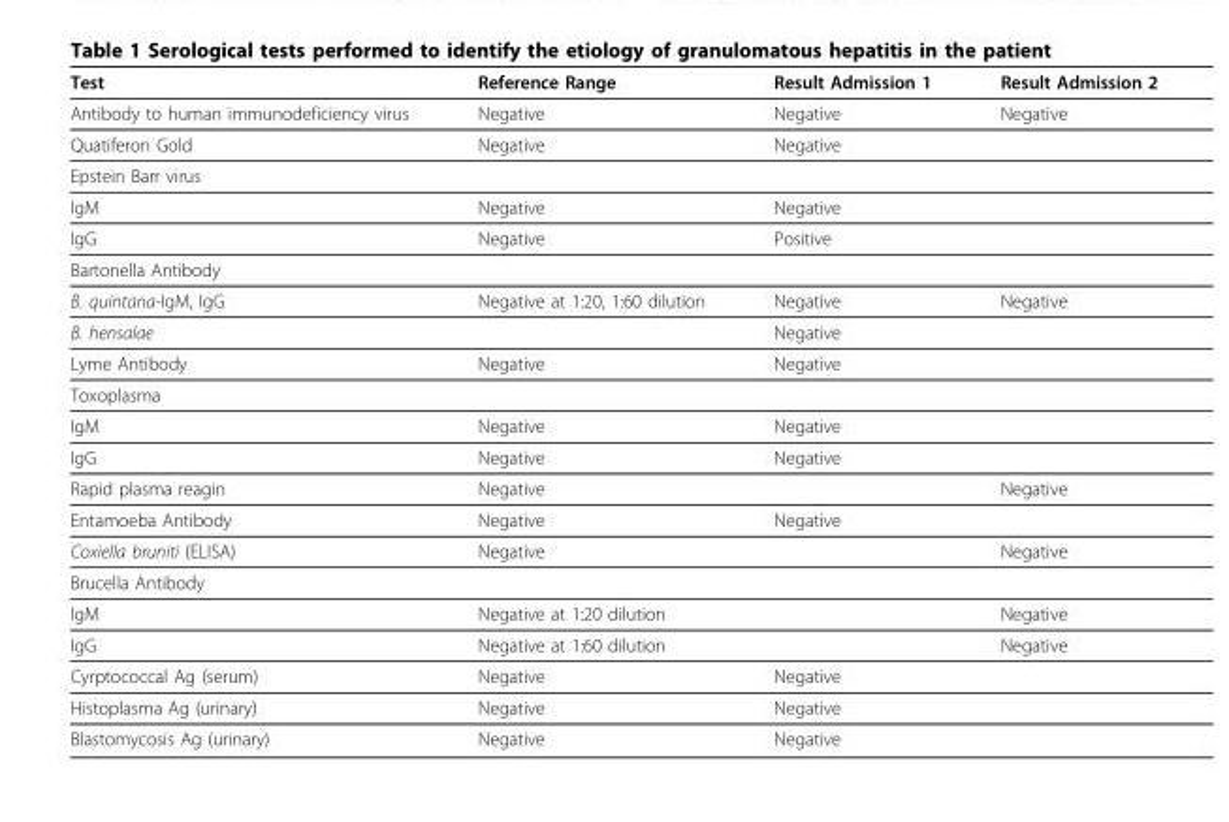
<table><thead><tr><td>Test</td><td>Reference Range</td><td>Result Admission 1</td><td>Result Admission 2</td></tr></thead><tbody><tr><td>Antibody to human immunodeficiency virus</td><td>Negative</td><td>Negative</td><td>Negative</td></tr><tr><td>Quatiferon Gold</td><td>Negative</td><td>Negative</td><td></td></tr><tr><td colspan="4">Epstein Barr virus</td></tr><tr><td>IgM</td><td>Negative</td><td>Negative</td><td></td></tr><tr><td>IgG</td><td>Negative</td><td>Positive</td><td></td></tr><tr><td colspan="4">Bartonella Antibody</td></tr><tr><td>B. quintana-IgM, IgG</td><td>Negative at 1:20, 1:60 dilution</td><td>Negative</td><td>Negative</td></tr><tr><td>B. hensalae</td><td></td><td>Negative</td><td></td></tr><tr><td>Lyme Antibody</td><td>Negative</td><td>Negative</td><td></td></tr><tr><td colspan="4">Toxoplasma</td></tr><tr><td>IgM</td><td>Negative</td><td>Negative</td><td></td></tr><tr><td>IgG</td><td>Negative</td><td>Negative</td><td></td></tr><tr><td>Rapid plasma reagin</td><td>Negative</td><td></td><td>Negative</td></tr><tr><td>Entamoeba Antibody</td><td>Negative</td><td>Negative</td><td></td></tr><tr><td>Coxiella bruniti (ELISA)</td><td>Negative</td><td></td><td>Negative</td></tr><tr><td colspan="4">Brucella Antibody</td></tr><tr><td>IgM</td><td>Negative at 1:20 dilution</td><td></td><td>Negative</td></tr><tr><td>IgG</td><td>Negative at 1:60 dilution</td><td></td><td>Negative</td></tr><tr><td>Cyrptococcal Ag (serum)</td><td>Negative</td><td>Negative</td><td></td></tr><tr><td>Histoplasma Ag (urinary)</td><td>Negative</td><td>Negative</td><td></td></tr><tr><td>Blastomycosis Ag (urinary)</td><td>Negative</td><td>Negative</td><td></td></tr></tbody></table>